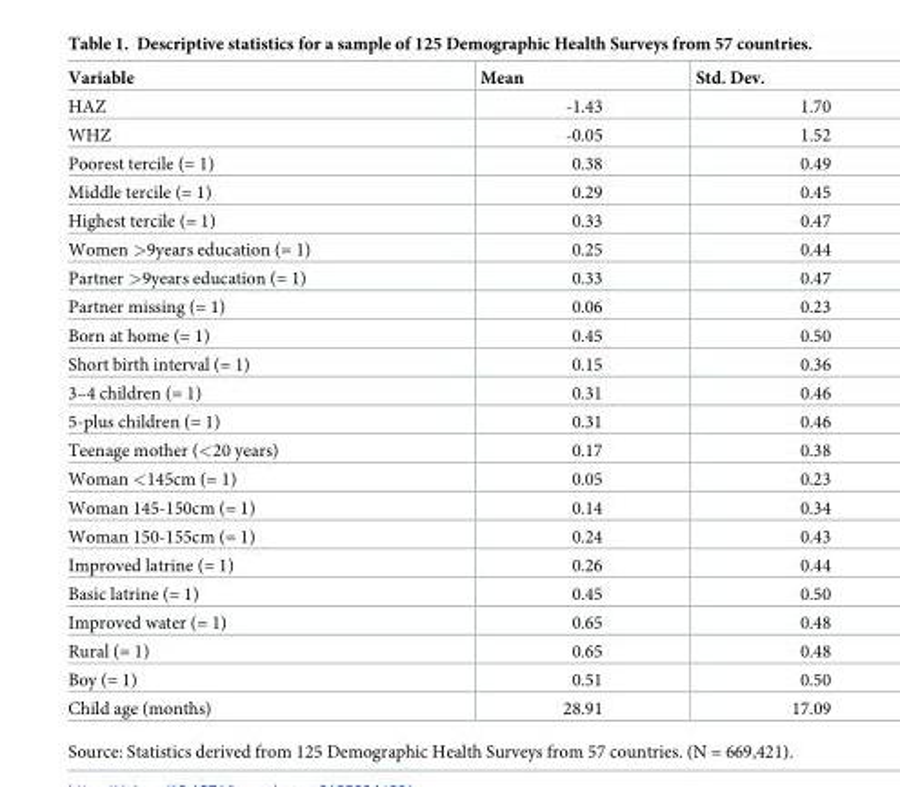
<table><thead><tr><td>Variable</td><td>Mean</td><td>Std. Dev.</td></tr></thead><tbody><tr><td>HAZ</td><td>-1.43</td><td>1.70</td></tr><tr><td>WHZ</td><td>-0.05</td><td>1.52</td></tr><tr><td>Poorest tercile (= 1)</td><td>0.38</td><td>0.49</td></tr><tr><td>Middle tercile (= 1)</td><td>0.29</td><td>0.45</td></tr><tr><td>Highest tercile (= 1)</td><td>0.33</td><td>0.47</td></tr><tr><td>Women &gt;9years education (= 1)</td><td>0.25</td><td>0.44</td></tr><tr><td>Partner &gt;9years education (= 1)</td><td>0.33</td><td>0.47</td></tr><tr><td>Partner missing (= 1)</td><td>0.06</td><td>0.23</td></tr><tr><td>Born at home (= 1)</td><td>0.45</td><td>0.50</td></tr><tr><td>Short birth interval (= 1)</td><td>0.15</td><td>0.36</td></tr><tr><td>3–4 children (= 1)</td><td>0.31</td><td>0.46</td></tr><tr><td>5-plus children (= 1)</td><td>0.31</td><td>0.46</td></tr><tr><td>Teenage mother (&lt;20 years)</td><td>0.17</td><td>0.38</td></tr><tr><td>Woman &lt;145cm (= 1)</td><td>0.05</td><td>0.23</td></tr><tr><td>Woman 145-150cm (= 1)</td><td>0.14</td><td>0.34</td></tr><tr><td>Woman 150-155cm (= 1)</td><td>0.24</td><td>0.43</td></tr><tr><td>Improved latrine (= 1)</td><td>0.26</td><td>0.44</td></tr><tr><td>Basic latrine (= 1)</td><td>0.45</td><td>0.50</td></tr><tr><td>Improved water (= 1)</td><td>0.65</td><td>0.48</td></tr><tr><td>Rural (= 1)</td><td>0.65</td><td>0.48</td></tr><tr><td>Boy (= 1)</td><td>0.51</td><td>0.50</td></tr><tr><td>Child age (months)</td><td>28.91</td><td>17.09</td></tr></tbody></table>